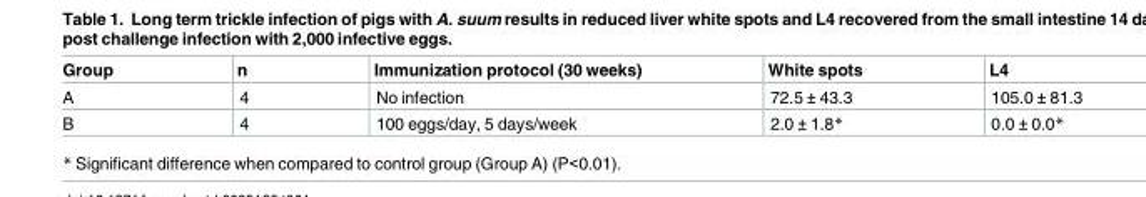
<table><thead><tr><td>Group</td><td>n</td><td>Immunization protocol (30 weeks)</td><td>White spots</td><td>L4</td></tr></thead><tbody><tr><td>A</td><td>4</td><td>No infection</td><td>72.5 ± 43.3</td><td>105.0 ± 81.3</td></tr><tr><td>B</td><td>4</td><td>100 eggs/day, 5 days/week</td><td>2.0 ± 1.8*</td><td>0.0 ± 0.0*</td></tr></tbody></table>